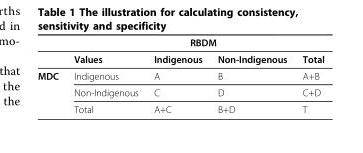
<table><thead><tr><td rowspan="2"></td><td colspan="4">RBDM</td></tr><tr><td>Values</td><td>Indigenous</td><td>Non-Indigenous</td><td>Total</td></tr></thead><tbody><tr><td rowspan="3">MDC</td><td>Indigenous</td><td>A</td><td>B</td><td>A+B</td></tr><tr><td>Non-Indigenous</td><td>C</td><td>D</td><td>C+D</td></tr><tr><td>Total</td><td>A+C</td><td>B+D</td><td>T</td></tr></tbody></table>